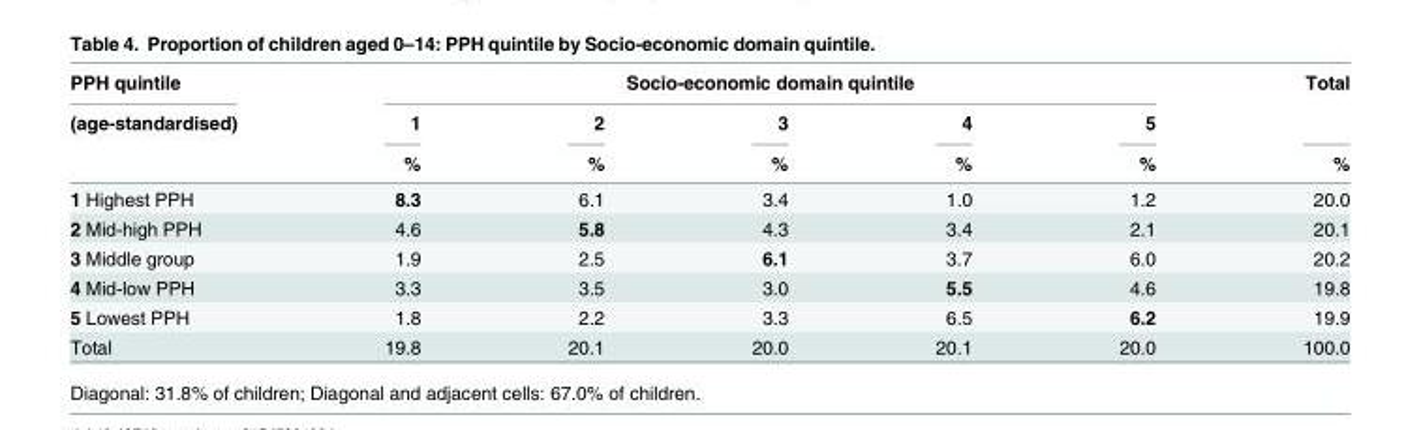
<table><thead><tr><td rowspan="3">PPH quintile (age-standardised)</td><td colspan="5">Socio-economic domain quintile</td><td rowspan="3">Total %</td></tr><tr><td rowspan="2">1 %</td><td rowspan="2">2 %</td><td rowspan="2">3 %</td><td rowspan="2">4 %</td><td rowspan="2">5 %</td></tr><tr></tr></thead><tbody><tr><td>1 Highest PPH</td><td>8.3</td><td>6.1</td><td>3.4</td><td>1.0</td><td>1.2</td><td>20.0</td></tr><tr><td>2 Mid-high PPH</td><td>4.6</td><td>5.8</td><td>4.3</td><td>3.4</td><td>2.1</td><td>20.1</td></tr><tr><td>3 Middle group</td><td>1.9</td><td>2.5</td><td>6.1</td><td>3.7</td><td>6.0</td><td>20.2</td></tr><tr><td>4 Mid-low PPH</td><td>3.3</td><td>3.5</td><td>3.0</td><td>5.5</td><td>4.6</td><td>19.8</td></tr><tr><td>5 Lowest PPH</td><td>1.8</td><td>2.2</td><td>3.3</td><td>6.5</td><td>6.2</td><td>19.9</td></tr><tr><td>Total</td><td>19.8</td><td>20.1</td><td>20.0</td><td>20.1</td><td>20.0</td><td>100.0</td></tr></tbody></table>